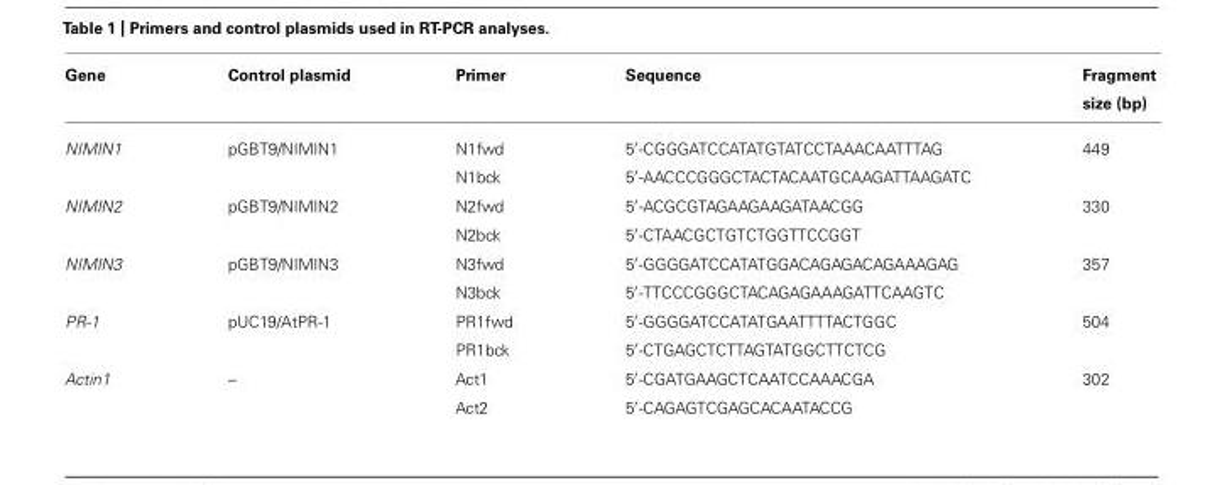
<table><thead><tr><td>Gene</td><td>Control plasmid</td><td>Primer</td><td>Sequence</td><td>Fragment size (bp)</td></tr></thead><tbody><tr><td>NIMIN1</td><td>pGBT9/NIMIN1</td><td>N1fwd N1bck</td><td>5′-CGGGATCCATATGTATCCTAAACAATTTAG 5′-AACCCGGGCTACTACAATGCAAGATTAAGATC</td><td>449</td></tr><tr><td>NIMIN2</td><td>pGBT9/NIMIN2</td><td>N2fwd N2bck</td><td>5′-ACGCGTAGAAGAAGATAACGG 5′-CTAACGCTGTCTGGTTCCGGT</td><td>330</td></tr><tr><td>NIMIN3</td><td>pGBT9/NIMIN3</td><td>N3fwd N3bck</td><td>5′-GGGGATCCATATGGACAGAGACAGAAAGAG 5′-TTCCCGGGCTACAGAGAAAGATTCAAGTC</td><td>357</td></tr><tr><td>PR-1</td><td>pUC19/AtPR-1</td><td>PR1fwd PR1bck</td><td>5′-GGGGATCCATATGAATTTTACTGGC 5′-CTGAGCTCTTAGTATGGCTTCTCG</td><td>504</td></tr><tr><td>Actin1</td><td>–</td><td>Act1 Act2</td><td>5′-CGATGAAGCTCAATCCAAACGA 5′-CAGAGTCGAGCACAATACCG</td><td>302</td></tr></tbody></table>